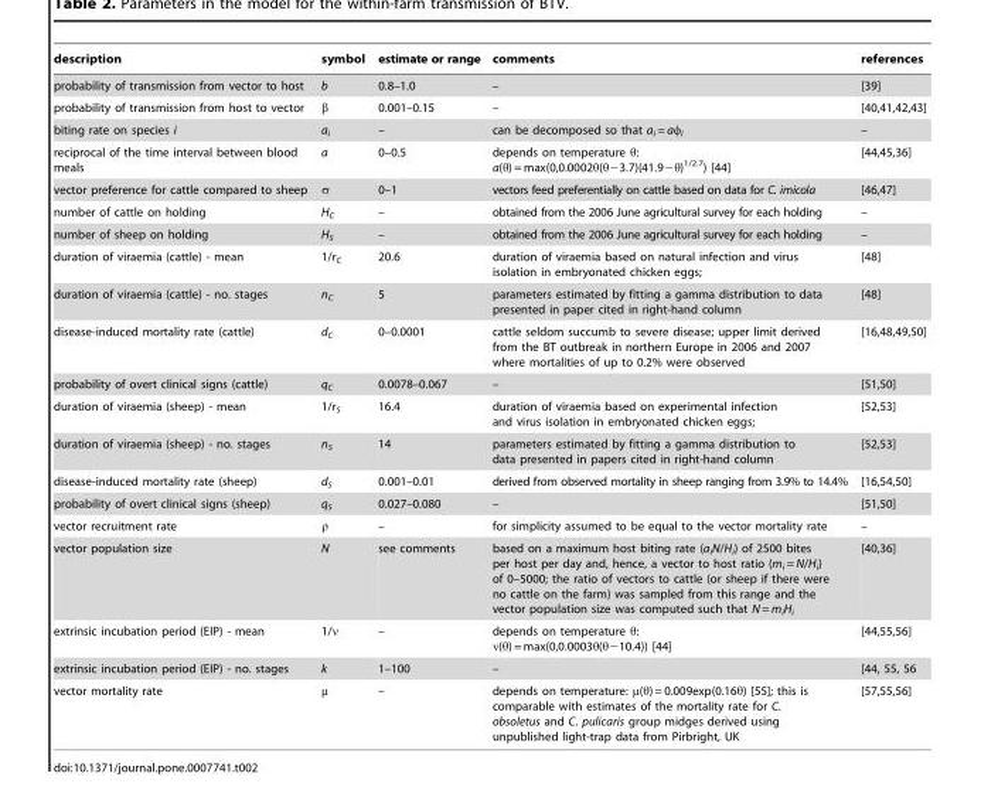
<table><thead><tr><td>description</td><td>symbol</td><td>estimate or range</td><td>comments</td><td>references</td></tr></thead><tbody><tr><td>probability of transmission from vector to host</td><td>b</td><td>0.8–1.0</td><td>–</td><td>[39]</td></tr><tr><td>probability of transmission from host to vector</td><td>β</td><td>0.001–0.15</td><td>–</td><td>[40,41,42,43]</td></tr><tr><td>biting rate on species i</td><td>a<sub>i</sub></td><td>–</td><td>can be decomposed so that a<sub>i</sub> = aφ<sub>i</sub></td><td>–</td></tr><tr><td>reciprocal of the time interval between blood meals</td><td>a</td><td>0–0.5</td><td>depends on temperature θ: a(θ) = max(0,0.0002θ(θ−3.7)(41.9−θ)<sup>1/2.7</sup>) [44]</td><td>[44,45,36]</td></tr><tr><td>vector preference for cattle compared to sheep</td><td>σ</td><td>0–1</td><td>vectors feed preferentially on cattle based on data for C. imicola</td><td>[46,47]</td></tr><tr><td>number of cattle on holding</td><td>H<sub>C</sub></td><td>–</td><td>obtained from the 2006 June agricultural survey for each holding</td><td>–</td></tr><tr><td>number of sheep on holding</td><td>H<sub>S</sub></td><td>–</td><td>obtained from the 2006 June agricultural survey for each holding</td><td>–</td></tr><tr><td>duration of viraemia (cattle) - mean</td><td>1/r<sub>C</sub></td><td>20.6</td><td>duration of viraemia based on natural infection and virus isolation in embryonated chicken eggs;</td><td>[48]</td></tr><tr><td>duration of viraemia (cattle) - no. stages</td><td>n<sub>C</sub></td><td>5</td><td>parameters estimated by fitting a gamma distribution to data presented in paper cited in right-hand column</td><td>[48]</td></tr><tr><td>disease-induced mortality rate (cattle)</td><td>d<sub>C</sub></td><td>0–0.0001</td><td>cattle seldom succumb to severe disease; upper limit derived from the BT outbreak in northern Europe in 2006 and 2007 where mortalities of up to 0.2% were observed</td><td>[16,48,49,50]</td></tr><tr><td>probability of overt clinical signs (cattle)</td><td>q<sub>C</sub></td><td>0.0078–0.067</td><td>–</td><td>[51,50]</td></tr><tr><td>duration of viraemia (sheep) - mean</td><td>1/r<sub>S</sub></td><td>16.4</td><td>duration of viraemia based on experimental infection and virus isolation in embryonated chicken eggs;</td><td>[52,53]</td></tr><tr><td>duration of viraemia (sheep) - no. stages</td><td>n<sub>S</sub></td><td>14</td><td>parameters estimated by fitting a gamma distribution to data presented in papers cited in right-hand column</td><td>[52,53]</td></tr><tr><td>disease-induced mortality rate (sheep)</td><td>d<sub>S</sub></td><td>0.001–0.01</td><td>derived from observed mortality in sheep ranging from 3.9% to 14.4%</td><td>[16,54,50]</td></tr><tr><td>probability of overt clinical signs (sheep)</td><td>q<sub>S</sub></td><td>0.027–0.080</td><td>–</td><td>[51,50]</td></tr><tr><td>vector recruitment rate</td><td>ρ</td><td>–</td><td>for simplicity assumed to be equal to the vector mortality rate</td><td>–</td></tr><tr><td>vector population size</td><td>N</td><td>see comments</td><td>based on a maximum host biting rate (a<sub>i</sub>N/H<sub>i</sub>) of 2500 bites per host per day and, hence, a vector to host ratio (m<sub>i</sub> = N/H<sub>i</sub>) of 0–5000; the ratio of vectors to cattle (or sheep if there were no cattle on the farm) was sampled from this range and the vector population size was computed such that N = m<sub>i</sub>H<sub>i</sub></td><td>[40,36]</td></tr><tr><td>extrinsic incubation period (EIP) - mean</td><td>1/ν</td><td>–</td><td>depends on temperature θ: ν(θ) = max(0,0.0003θ(θ−10.4)) [44]</td><td>[44,55,56]</td></tr><tr><td>extrinsic incubation period (EIP) - no. stages</td><td>k</td><td>1–100</td><td>–</td><td>[44, 55, 56</td></tr><tr><td>vector mortality rate</td><td>μ</td><td>–</td><td>depends on temperature: μ(θ) = 0.009exp(0.16θ) [55]; this is comparable with estimates of the mortality rate for C. obsoletus and C. pulicaris group midges derived using unpublished light-trap data from Pirbright, UK</td><td>[57,55,56]</td></tr></tbody></table>